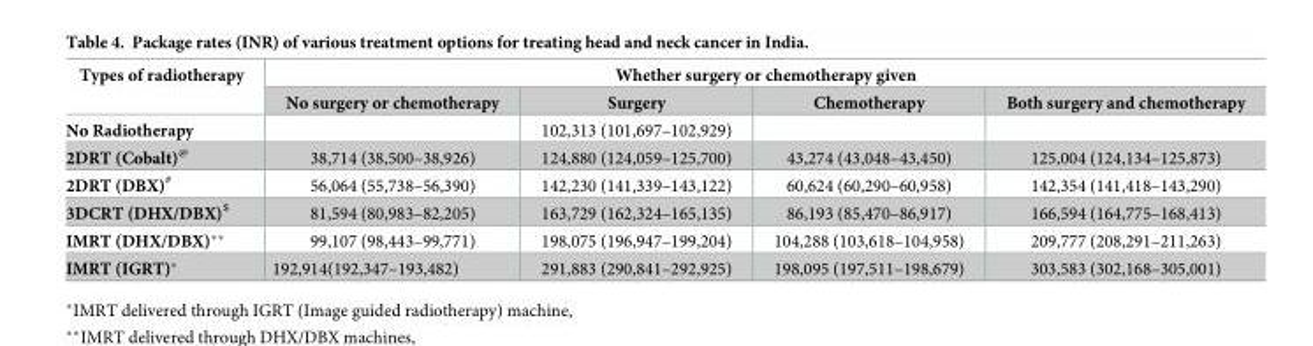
<table><thead><tr><td rowspan="2">Types of radiotherapy</td><td colspan="4">Whether surgery or chemotherapy given</td></tr><tr><td>No surgery or chemotherapy</td><td>Surgery</td><td>Chemotherapy</td><td>Both surgery and chemotherapy</td></tr></thead><tbody><tr><td>No Radiotherapy</td><td></td><td>102,313 (101,697–102,929)</td><td></td><td></td></tr><tr><td>2DRT (Cobalt)<sup>@</sup></td><td>38,714 (38,500–38,926)</td><td>124,880 (124,059–125,700)</td><td>43,274 (43,048–43,450)</td><td>125,004 (124,134–125,873)</td></tr><tr><td>2DRT (DBX)<sup>#</sup></td><td>56,064 (55,738–56,390)</td><td>142,230 (141,339–143,122)</td><td>60,624 (60,290–60,958)</td><td>142,354 (141,418–143,290)</td></tr><tr><td>3DCRT (DHX/DBX)<sup>$</sup></td><td>81,594 (80,983–82,205)</td><td>163,729 (162,324–165,135)</td><td>86,193 (85,470–86,917)</td><td>166,594 (164,775–168,413)</td></tr><tr><td>IMRT (DHX/DBX)**</td><td>99,107 (98,443–99,771)</td><td>198,075 (196,947–199,204)</td><td>104,288 (103,618–104,958)</td><td>209,777 (208,291–211,263)</td></tr><tr><td>IMRT (IGRT)*</td><td>192,914(192,347–193,482)</td><td>291,883 (290,841–292,925)</td><td>198,095 (197,511–198,679)</td><td>303,583 (302,168–305,001)</td></tr></tbody></table>